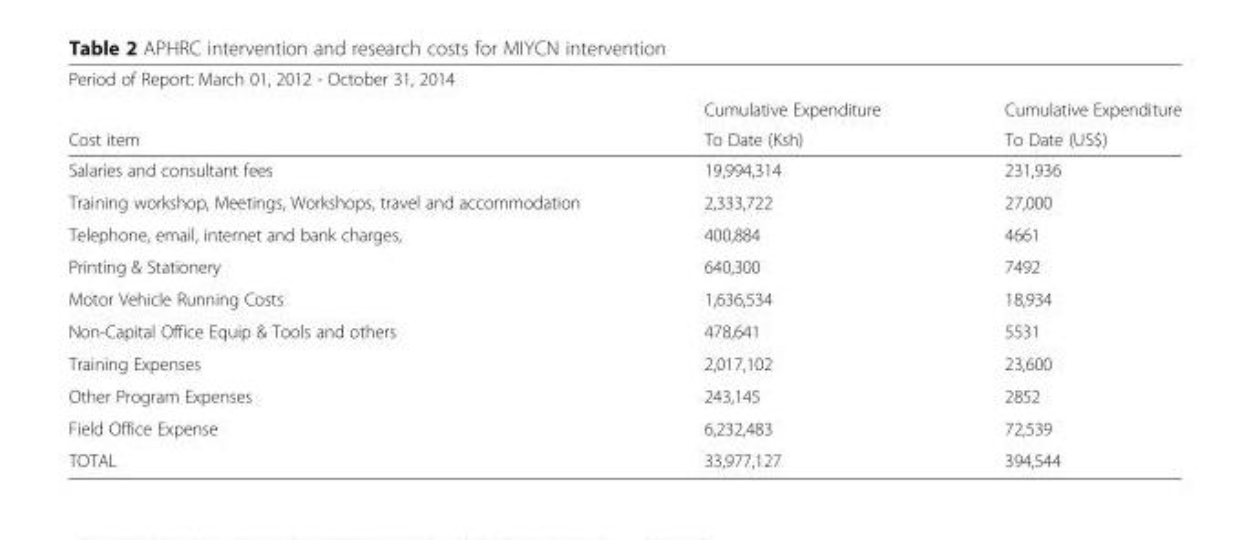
<table><thead><tr><td rowspan="3">Period of Report: March 01, 2012 - October 31, 2014 Cost item</td><td rowspan="3">Cumulative Expenditure To Date (Ksh)</td><td rowspan="3">Cumulative Expenditure To Date (US$)</td></tr><tr></tr><tr></tr></thead><tbody><tr><td>Salaries and consultant fees</td><td>19,994,314</td><td>231,936</td></tr><tr><td>Training workshop, Meetings, Workshops, travel and accommodation</td><td>2,333,722</td><td>27,000</td></tr><tr><td>Telephone, email, internet and bank charges,</td><td>400,884</td><td>4661</td></tr><tr><td>Printing &amp; Stationery</td><td>640,300</td><td>7492</td></tr><tr><td>Motor Vehicle Running Costs</td><td>1,636,534</td><td>18,934</td></tr><tr><td>Non-Capital Office Equip &amp; Tools and others</td><td>478,641</td><td>5531</td></tr><tr><td>Training Expenses</td><td>2,017,102</td><td>23,600</td></tr><tr><td>Other Program Expenses</td><td>243,145</td><td>2852</td></tr><tr><td>Field Office Expense</td><td>6,232,483</td><td>72,539</td></tr><tr><td>TOTAL</td><td>33,977,127</td><td>394,544</td></tr></tbody></table>